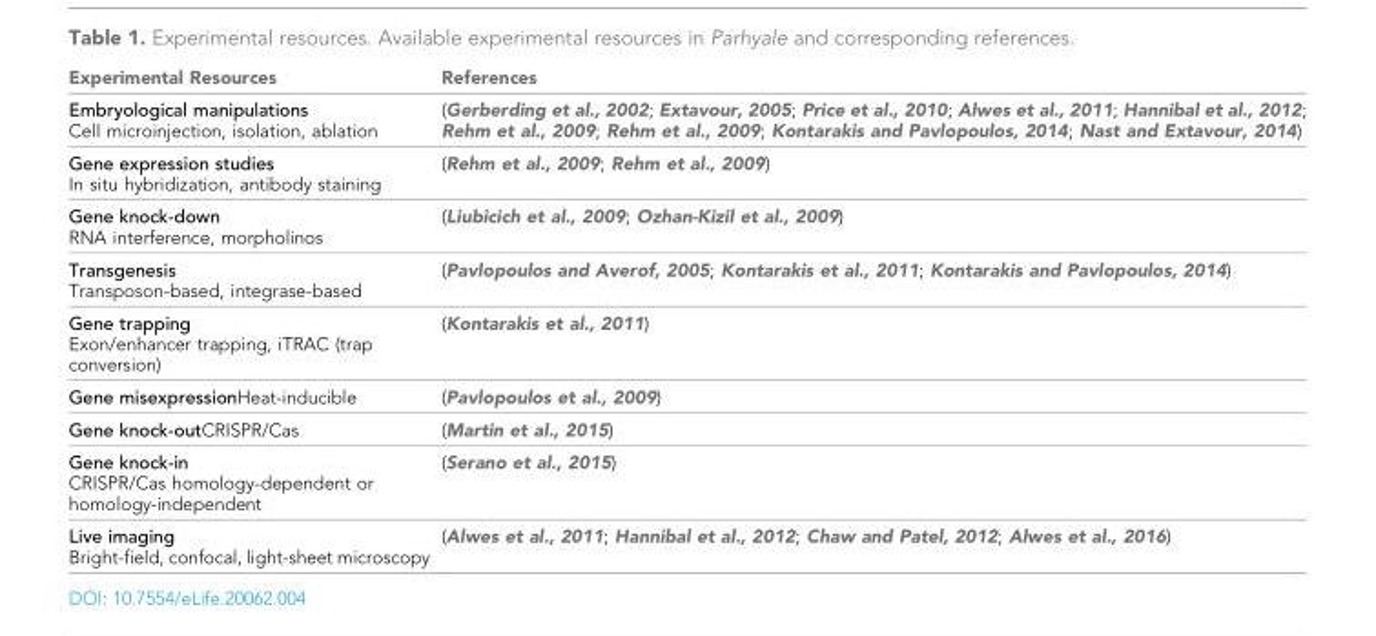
<table><thead><tr><td>Experimental Resources</td><td>References</td></tr></thead><tbody><tr><td>Embryological manipulations Cell microinjection, isolation, ablation</td><td>(Gerberding et al., 2002; Extavour, 2005; Price et al., 2010; Alwes et al., 2011; Hannibal et al., 2012; Rehm et al., 2009; Rehm et al., 2009; Kontarakis and Pavlopoulos, 2014; Nast and Extavour, 2014)</td></tr><tr><td>Gene expression studies In situ hybridization, antibody staining</td><td>(Rehm et al., 2009; Rehm et al., 2009)</td></tr><tr><td>Gene knock-down RNA interference, morpholinos</td><td>(Liubicich et al., 2009; Ozhan-Kizil et al., 2009)</td></tr><tr><td>Transgenesis Transposon-based, integrase-based</td><td>(Pavlopoulos and Averof, 2005; Kontarakis et al., 2011; Kontarakis and Pavlopoulos, 2014)</td></tr><tr><td>Gene trapping Exon/enhancer trapping, iTRAC (trap conversion)</td><td>(Kontarakis et al., 2011)</td></tr><tr><td>Gene misexpressionHeat-inducible</td><td>(Pavlopoulos et al., 2009)</td></tr><tr><td>Gene knock-outCRISPR/Cas</td><td>(Martin et al., 2015)</td></tr><tr><td>Gene knock-in CRISPR/Cas homology-dependent or homology-independent</td><td>(Serano et al., 2015)</td></tr><tr><td>Live imaging Bright-field, confocal, light-sheet microscopy</td><td>(Alwes et al., 2011; Hannibal et al., 2012; Chaw and Patel, 2012; Alwes et al., 2016)</td></tr></tbody></table>